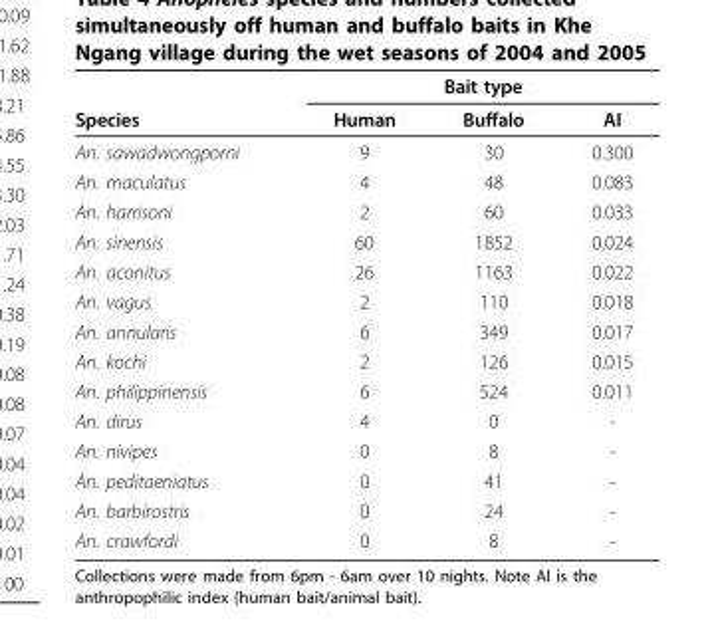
<table><thead><tr><td rowspan="2">Species</td><td colspan="3">Bait type</td></tr><tr><td>Human</td><td>Buffalo</td><td>AI</td></tr></thead><tbody><tr><td>An. sawadwongporni</td><td>9</td><td>30</td><td>0.300</td></tr><tr><td>An. maculatus</td><td>4</td><td>48</td><td>0.083</td></tr><tr><td>An. harrisoni</td><td>2</td><td>60</td><td>0.033</td></tr><tr><td>An. sinensis</td><td>60</td><td>1852</td><td>0.024</td></tr><tr><td>An. aconitus</td><td>26</td><td>1163</td><td>0.022</td></tr><tr><td>An. vagus</td><td>2</td><td>110</td><td>0.018</td></tr><tr><td>An. annularis</td><td>6</td><td>349</td><td>0.017</td></tr><tr><td>An. kochi</td><td>2</td><td>126</td><td>0.015</td></tr><tr><td>An. philippinensis</td><td>6</td><td>524</td><td>0.011</td></tr><tr><td>An. dirus</td><td>4</td><td>0</td><td>-</td></tr><tr><td>An. nivipes</td><td>0</td><td>8</td><td>-</td></tr><tr><td>An. peditaeniatus</td><td>0</td><td>41</td><td>-</td></tr><tr><td>An. barbirostris</td><td>0</td><td>24</td><td>-</td></tr><tr><td>An. crawfordi</td><td>0</td><td>8</td><td>-</td></tr></tbody></table>